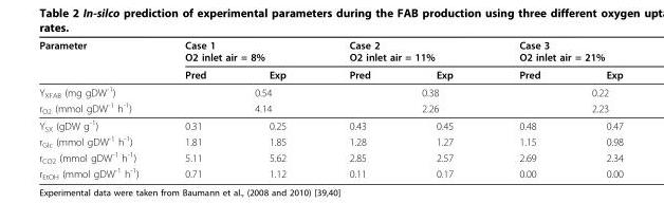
<table><thead><tr><td rowspan="2">Parameter</td><td colspan="2">Case 1 O2 inlet air = 8%</td><td colspan="2">Case 2 O2 inlet air = 11%</td><td colspan="2">Case 3 O2 inlet air = 21%</td></tr><tr><td>Pred</td><td>Exp</td><td>Pred</td><td>Exp</td><td>Pred</td><td>Exp</td></tr></thead><tbody><tr><td>Y<sub>XFAB</sub> (mg gDW<sup>-1</sup>)</td><td colspan="2">0.54</td><td colspan="2">0.38</td><td colspan="2">0.22</td></tr><tr><td>r<sub>O2</sub> (mmol gDW<sup>-1</sup> h<sup>-1</sup>)</td><td colspan="2">4.14</td><td colspan="2">2.26</td><td colspan="2">2.23</td></tr><tr><td>Y<sub>SX</sub> (gDW g<sup>-1</sup>)</td><td>0.31</td><td>0.25</td><td>0.43</td><td>0.45</td><td>0.48</td><td>0.47</td></tr><tr><td>r<sub>Glc</sub> (mmol gDW<sup>-1</sup> h<sup>-1</sup>)</td><td>1.81</td><td>1.85</td><td>1.28</td><td>1.27</td><td>1.15</td><td>0.98</td></tr><tr><td>r<sub>CO2</sub> (mmol gDW<sup>-1</sup> h<sup>-1</sup>)</td><td>5.11</td><td>5.62</td><td>2.85</td><td>2.57</td><td>2.69</td><td>2.34</td></tr><tr><td>r<sub>EtOH</sub> (mmol gDW<sup>-1</sup> h<sup>-1</sup>)</td><td>0.71</td><td>1.12</td><td>0.11</td><td>0.17</td><td>0.00</td><td>0.00</td></tr></tbody></table>